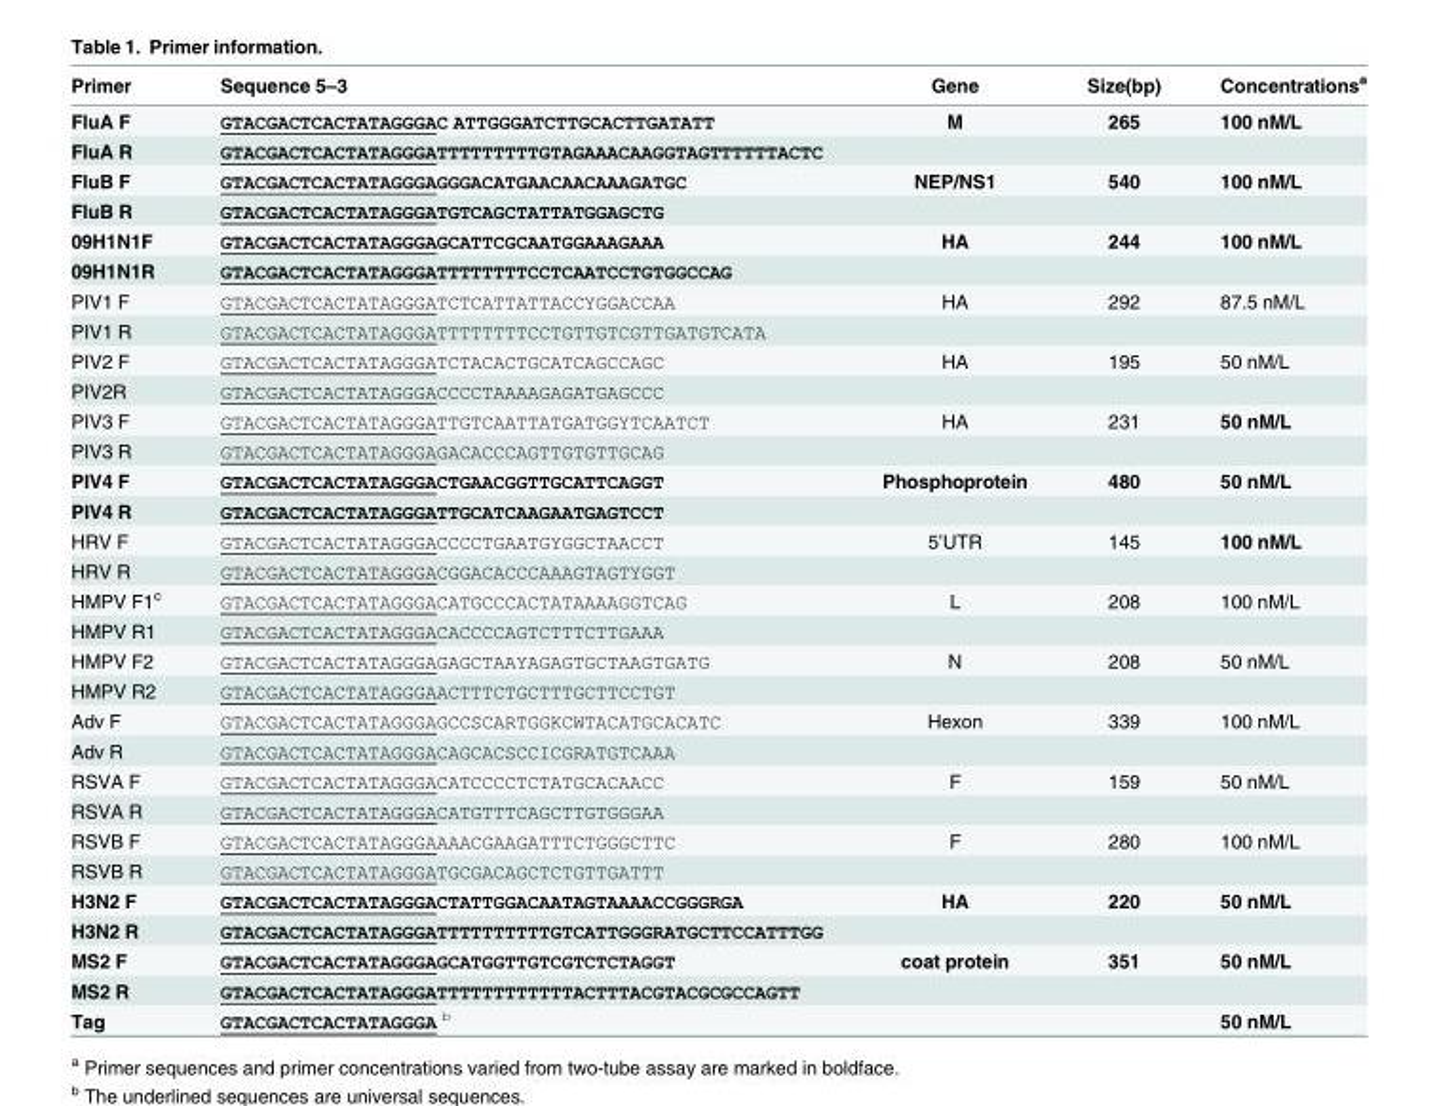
<table><thead><tr><td>Primer</td><td>Sequence 5–3</td><td>Gene</td><td>Size(bp)</td><td>Concentrations<sup>a</sup></td></tr></thead><tbody><tr><td>FluA F</td><td>GTACGACTCACTATAGGGAC ATTGGGATCTTGCACTTGATATT</td><td>M</td><td>265</td><td>100 nM/L</td></tr><tr><td>FluA R</td><td>GTACGACTCACTATAGGGATTTTTTTTTGTAGAAACAAGGTAGTTTTTTACTC</td><td></td><td></td><td></td></tr><tr><td>FluB F</td><td>GTACGACTCACTATAGGGAGGGACATGAACAACAAAGATGC</td><td>NEP/NS1</td><td>540</td><td>100 nM/L</td></tr><tr><td>FluB R</td><td>GTACGACTCACTATAGGGATGTCAGCTATTATGGAGCTG</td><td></td><td></td><td></td></tr><tr><td>09H1N1F</td><td>GTACGACTCACTATAGGGAGCATTCGCAATGGAAAGAAA</td><td>HA</td><td>244</td><td>100 nM/L</td></tr><tr><td>09H1N1R</td><td>GTACGACTCACTATAGGGATTTTTTTTCCTCAATCCTGTGGCCAG</td><td></td><td></td><td></td></tr><tr><td>PIV1 F</td><td>GTACGACTCACTATAGGGATCTCATTATTACCYGGACCAA</td><td>HA</td><td>292</td><td>87.5 nM/L</td></tr><tr><td>PIV1 R</td><td>GTACGACTCACTATAGGGATTTTTTTTCCTGTTGTCGTTGATGTCATA</td><td></td><td></td><td></td></tr><tr><td>PIV2 F</td><td>GTACGACTCACTATAGGGATCTACACTGCATCAGCCAGC</td><td>HA</td><td>195</td><td>50 nM/L</td></tr><tr><td>PIV2R</td><td>GTACGACTCACTATAGGGACCCCTAAAAGAGATGAGCCC</td><td></td><td></td><td></td></tr><tr><td>PIV3 F</td><td>GTACGACTCACTATAGGGATTGTCAATTATGATGGYTCAATCT</td><td>HA</td><td>231</td><td>50 nM/L</td></tr><tr><td>PIV3 R</td><td>GTACGACTCACTATAGGGAGACACCCAGTTGTGTTGCAG</td><td></td><td></td><td></td></tr><tr><td>PIV4 F</td><td>GTACGACTCACTATAGGGACTGAACGGTTGCATTCAGGT</td><td>Phosphoprotein</td><td>480</td><td>50 nM/L</td></tr><tr><td>PIV4 R</td><td>GTACGACTCACTATAGGGATTGCATCAAGAATGAGTCCT</td><td></td><td></td><td></td></tr><tr><td>HRV F</td><td>GTACGACTCACTATAGGGACCCCTGAATGYGGCTAACCT</td><td>5’UTR</td><td>145</td><td>100 nM/L</td></tr><tr><td>HRV R</td><td>GTACGACTCACTATAGGGACGGACACCCAAAGTAGTYGGT</td><td></td><td></td><td></td></tr><tr><td>HMPV F1<sup>c</sup></td><td>GTACGACTCACTATAGGGACATGCCCACTATAAAAGGTCAG</td><td>L</td><td>208</td><td>100 nM/L</td></tr><tr><td>HMPV R1</td><td>GTACGACTCACTATAGGGACACCCCAGTCTTTCTTGAAA</td><td></td><td></td><td></td></tr><tr><td>HMPV F2</td><td>GTACGACTCACTATAGGGAGAGCTAAYAGAGTGCTAAGTGATG</td><td>N</td><td>208</td><td>50 nM/L</td></tr><tr><td>HMPV R2</td><td>GTACGACTCACTATAGGGAACTTTCTGCTTTGCTTCCTGT</td><td></td><td></td><td></td></tr><tr><td>Adv F</td><td>GTACGACTCACTATAGGGAGCCSCARTGGKCWTACATGCACATC</td><td>Hexon</td><td>339</td><td>100 nM/L</td></tr><tr><td>Adv R</td><td>GTACGACTCACTATAGGGACAGCACSCCICGRATGTCAAA</td><td></td><td></td><td></td></tr><tr><td>RSVA F</td><td>GTACGACTCACTATAGGGACATCCCCTCTATGCACAACC</td><td>F</td><td>159</td><td>50 nM/L</td></tr><tr><td>RSVA R</td><td>GTACGACTCACTATAGGGACATGTTTCAGCTTGTGGGAA</td><td></td><td></td><td></td></tr><tr><td>RSVB F</td><td>GTACGACTCACTATAGGGAAAACGAAGATTTCTGGGCTTC</td><td>F</td><td>280</td><td>100 nM/L</td></tr><tr><td>RSVB R</td><td>GTACGACTCACTATAGGGATGCGACAGCTCTGTTGATTT</td><td></td><td></td><td></td></tr><tr><td>H3N2 F</td><td>GTACGACTCACTATAGGGACTATTGGACAATAGTAAAACCGGGRGA</td><td>HA</td><td>220</td><td>50 nM/L</td></tr><tr><td>H3N2 R</td><td>GTACGACTCACTATAGGGATTTTTTTTTTGTCATTGGGRATGCTTCCATTTGG</td><td></td><td></td><td></td></tr><tr><td>MS2 F</td><td>GTACGACTCACTATAGGGAGCATGGTTGTCGTCTCTAGGT</td><td>coat protein</td><td>351</td><td>50 nM/L</td></tr><tr><td>MS2 R</td><td>GTACGACTCACTATAGGGATTTTTTTTTTTTACTTTACGTACGCGCCAGTT</td><td></td><td></td><td></td></tr><tr><td>Tag</td><td>GTACGACTCACTATAGGGA <sup>b</sup></td><td></td><td></td><td>50 nM/L</td></tr></tbody></table>